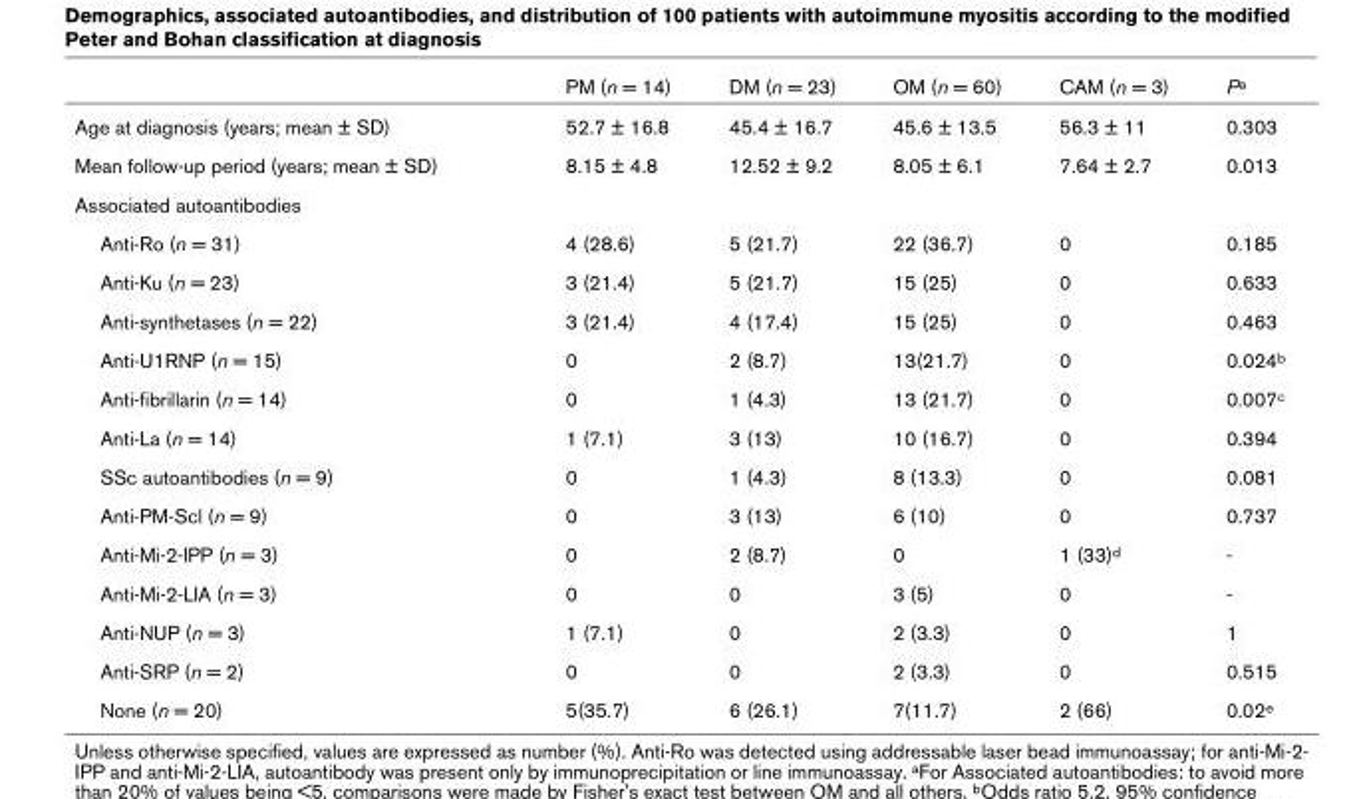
<table><thead><tr><td></td><td>PM (n = 14)</td><td>DM (n = 23)</td><td>OM (n = 60)</td><td>CAM (n = 3)</td><td>P<sup>a</sup></td></tr></thead><tbody><tr><td>Age at diagnosis (years; mean ± SD)</td><td>52.7 ± 16.8</td><td>45.4 ± 16.7</td><td>45.6 ± 13.5</td><td>56.3 ± 11</td><td>0.303</td></tr><tr><td>Mean follow-up period (years; mean ± SD)</td><td>8.15 ± 4.8</td><td>12.52 ± 9.2</td><td>8.05 ± 6.1</td><td>7.64 ± 2.7</td><td>0.013</td></tr><tr><td colspan="6">Associated autoantibodies</td></tr><tr><td>Anti-Ro (n = 31)</td><td>4 (28.6)</td><td>5 (21.7)</td><td>22 (36.7)</td><td>0</td><td>0.185</td></tr><tr><td>Anti-Ku (n = 23)</td><td>3 (21.4)</td><td>5 (21.7)</td><td>15 (25)</td><td>0</td><td>0.633</td></tr><tr><td>Anti-synthetases (n = 22)</td><td>3 (21.4)</td><td>4 (17.4)</td><td>15 (25)</td><td>0</td><td>0.463</td></tr><tr><td>Anti-U1RNP (n = 15)</td><td>0</td><td>2 (8.7)</td><td>13(21.7)</td><td>0</td><td>0.024<sup>b</sup></td></tr><tr><td>Anti-fibrillarin (n = 14)</td><td>0</td><td>1 (4.3)</td><td>13 (21.7)</td><td>0</td><td>0.007<sup>c</sup></td></tr><tr><td>Anti-La (n = 14)</td><td>1 (7.1)</td><td>3 (13)</td><td>10 (16.7)</td><td>0</td><td>0.394</td></tr><tr><td>SSc autoantibodies (n = 9)</td><td>0</td><td>1 (4.3)</td><td>8 (13.3)</td><td>0</td><td>0.081</td></tr><tr><td>Anti-PM-Scl (n = 9)</td><td>0</td><td>3 (13)</td><td>6 (10)</td><td>0</td><td>0.737</td></tr><tr><td>Anti-Mi-2-IPP (n = 3)</td><td>0</td><td>2 (8.7)</td><td>0</td><td>1 (33)<sup>d</sup></td><td>-</td></tr><tr><td>Anti-Mi-2-LIA (n = 3)</td><td>0</td><td>0</td><td>3 (5)</td><td>0</td><td>-</td></tr><tr><td>Anti-NUP (n = 3)</td><td>1 (7.1)</td><td>0</td><td>2 (3.3)</td><td>0</td><td>1</td></tr><tr><td>Anti-SRP (n = 2)</td><td>0</td><td>0</td><td>2 (3.3)</td><td>0</td><td>0.515</td></tr><tr><td>None (n = 20)</td><td>5(35.7)</td><td>6 (26.1)</td><td>7(11.7)</td><td>2 (66)</td><td>0.02<sup>e</sup></td></tr></tbody></table>